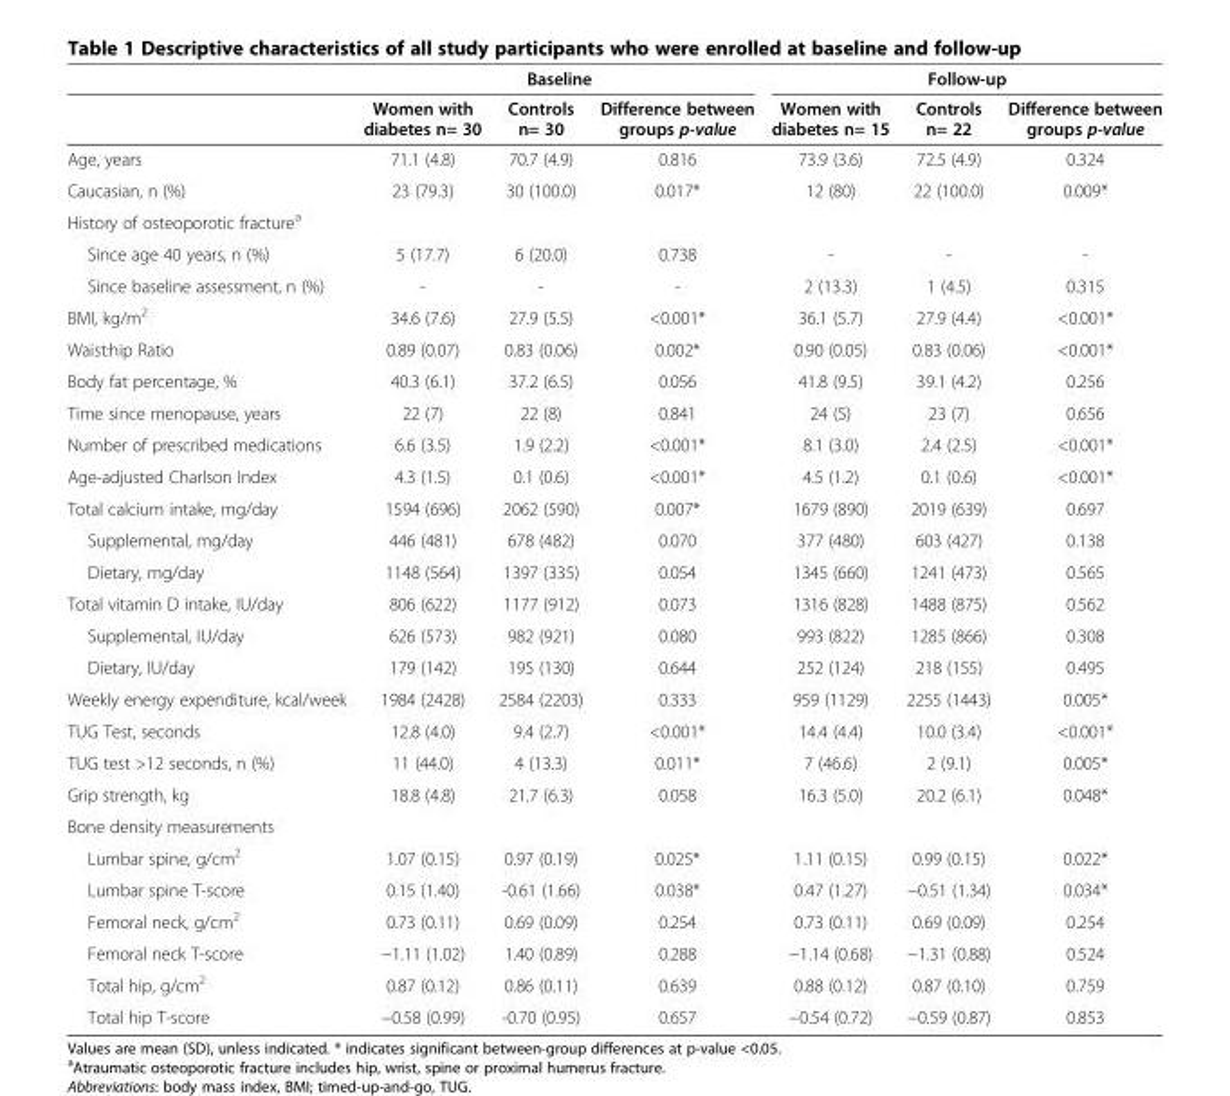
<table><thead><tr><td rowspan="2"></td><td colspan="3">Baseline</td><td colspan="3">Follow-up</td></tr><tr><td>Women with diabetes n= 30</td><td>Controls n= 30</td><td>Difference between groups p-value</td><td>Women with diabetes n= 15</td><td>Controls n= 22</td><td>Difference between groups p-value</td></tr></thead><tbody><tr><td>Age, years</td><td>71.1 (4.8)</td><td>70.7 (4.9)</td><td>0.816</td><td>73.9 (3.6)</td><td>72.5 (4.9)</td><td>0.324</td></tr><tr><td>Caucasian, n (%)</td><td>23 (79.3)</td><td>30 (100.0)</td><td>0.017*</td><td>12 (80)</td><td>22 (100.0)</td><td>0.009*</td></tr><tr><td colspan="7">History of osteoporotic fracture<sup>a</sup></td></tr><tr><td>Since age 40 years, n (%)</td><td>5 (17.7)</td><td>6 (20.0)</td><td>0.738</td><td>-</td><td>-</td><td>-</td></tr><tr><td>Since baseline assessment, n (%)</td><td>-</td><td>-</td><td>-</td><td>2 (13.3)</td><td>1 (4.5)</td><td>0.315</td></tr><tr><td>BMI, kg/m<sup>2</sup></td><td>34.6 (7.6)</td><td>27.9 (5.5)</td><td>&lt;0.001*</td><td>36.1 (5.7)</td><td>27.9 (4.4)</td><td>&lt;0.001*</td></tr><tr><td>Waist:hip Ratio</td><td>0.89 (0.07)</td><td>0.83 (0.06)</td><td>0.002*</td><td>0.90 (0.05)</td><td>0.83 (0.06)</td><td>&lt;0.001*</td></tr><tr><td>Body fat percentage, %</td><td>40.3 (6.1)</td><td>37.2 (6.5)</td><td>0.056</td><td>41.8 (9.5)</td><td>39.1 (4.2)</td><td>0.256</td></tr><tr><td>Time since menopause, years</td><td>22 (7)</td><td>22 (8)</td><td>0.841</td><td>24 (5)</td><td>23 (7)</td><td>0.656</td></tr><tr><td>Number of prescribed medications</td><td>6.6 (3.5)</td><td>1.9 (2.2)</td><td>&lt;0.001*</td><td>8.1 (3.0)</td><td>2.4 (2.5)</td><td>&lt;0.001*</td></tr><tr><td>Age-adjusted Charlson Index</td><td>4.3 (1.5)</td><td>0.1 (0.6)</td><td>&lt;0.001*</td><td>4.5 (1.2)</td><td>0.1 (0.6)</td><td>&lt;0.001*</td></tr><tr><td>Total calcium intake, mg/day</td><td>1594 (696)</td><td>2062 (590)</td><td>0.007*</td><td>1679 (890)</td><td>2019 (639)</td><td>0.697</td></tr><tr><td>Supplemental, mg/day</td><td>446 (481)</td><td>678 (482)</td><td>0.070</td><td>377 (480)</td><td>603 (427)</td><td>0.138</td></tr><tr><td>Dietary, mg/day</td><td>1148 (564)</td><td>1397 (335)</td><td>0.054</td><td>1345 (660)</td><td>1241 (473)</td><td>0.565</td></tr><tr><td>Total vitamin D intake, IU/day</td><td>806 (622)</td><td>1177 (912)</td><td>0.073</td><td>1316 (828)</td><td>1488 (875)</td><td>0.562</td></tr><tr><td>Supplemental, IU/day</td><td>626 (573)</td><td>982 (921)</td><td>0.080</td><td>993 (822)</td><td>1285 (866)</td><td>0.308</td></tr><tr><td>Dietary, IU/day</td><td>179 (142)</td><td>195 (130)</td><td>0.644</td><td>252 (124)</td><td>218 (155)</td><td>0.495</td></tr><tr><td>Weekly energy expenditure, kcal/week</td><td>1984 (2428)</td><td>2584 (2203)</td><td>0.333</td><td>959 (1129)</td><td>2255 (1443)</td><td>0.005*</td></tr><tr><td>TUG Test, seconds</td><td>12.8 (4.0)</td><td>9.4 (2.7)</td><td>&lt;0.001*</td><td>14.4 (4.4)</td><td>10.0 (3.4)</td><td>&lt;0.001*</td></tr><tr><td>TUG test &gt;12 seconds, n (%)</td><td>11 (44.0)</td><td>4 (13.3)</td><td>0.011*</td><td>7 (46.6)</td><td>2 (9.1)</td><td>0.005*</td></tr><tr><td>Grip strength, kg</td><td>18.8 (4.8)</td><td>21.7 (6.3)</td><td>0.058</td><td>16.3 (5.0)</td><td>20.2 (6.1)</td><td>0.048*</td></tr><tr><td colspan="7">Bone density measurements</td></tr><tr><td>Lumbar spine, g/cm<sup>2</sup></td><td>1.07 (0.15)</td><td>0.97 (0.19)</td><td>0.025*</td><td>1.11 (0.15)</td><td>0.99 (0.15)</td><td>0.022*</td></tr><tr><td>Lumbar spine T-score</td><td>0.15 (1.40)</td><td>-0.61 (1.66)</td><td>0.038*</td><td>0.47 (1.27)</td><td>−0.51 (1.34)</td><td>0.034*</td></tr><tr><td>Femoral neck, g/cm<sup>2</sup></td><td>0.73 (0.11)</td><td>0.69 (0.09)</td><td>0.254</td><td>0.73 (0.11)</td><td>0.69 (0.09)</td><td>0.254</td></tr><tr><td>Femoral neck T-score</td><td>−1.11 (1.02)</td><td>1.40 (0.89)</td><td>0.288</td><td>−1.14 (0.68)</td><td>−1.31 (0.88)</td><td>0.524</td></tr><tr><td>Total hip, g/cm<sup>2</sup></td><td>0.87 (0.12)</td><td>0.86 (0.11)</td><td>0.639</td><td>0.88 (0.12)</td><td>0.87 (0.10)</td><td>0.759</td></tr><tr><td>Total hip T-score</td><td>−0.58 (0.99)</td><td>-0.70 (0.95)</td><td>0.657</td><td>−0.54 (0.72)</td><td>−0.59 (0.87)</td><td>0.853</td></tr></tbody></table>